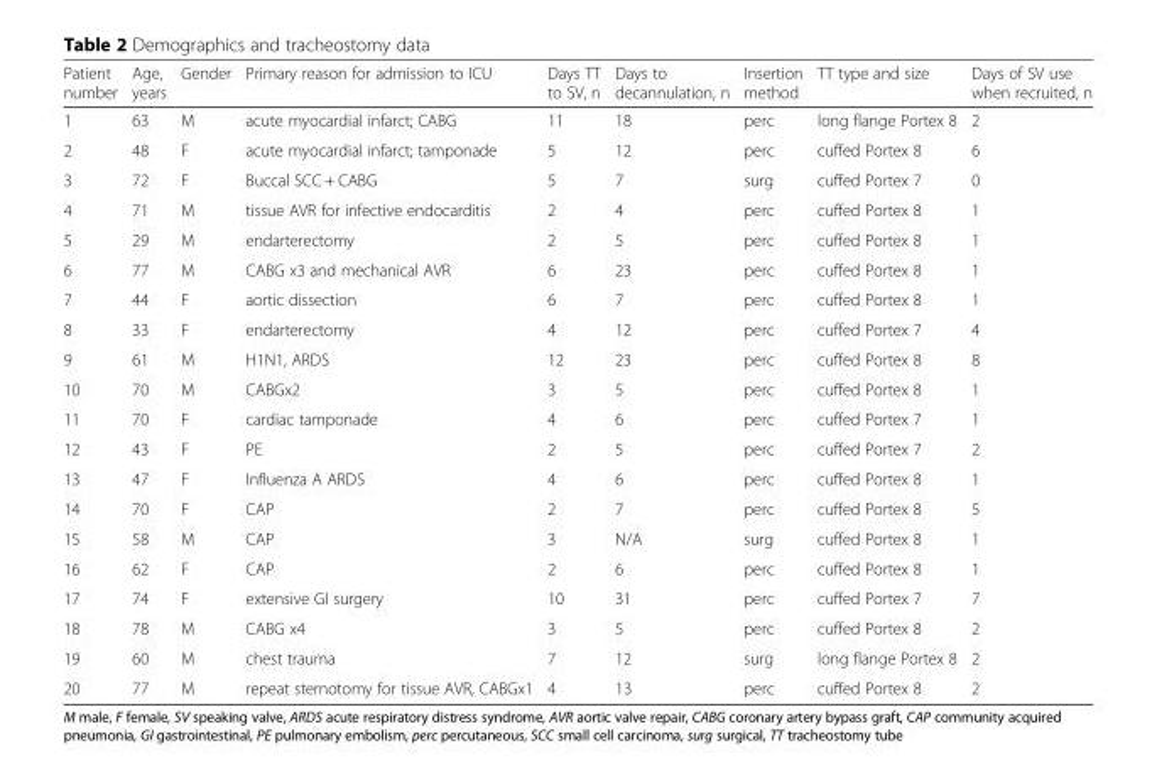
<table><thead><tr><td>Patient number</td><td>Age, years</td><td>Gender</td><td>Primary reason for admission to ICU</td><td>Days TT to SV, n</td><td>Days to decannulation, n</td><td>Insertion method</td><td>TT type and size</td><td>Days of SV use when recruited, n</td></tr></thead><tbody><tr><td>1</td><td>63</td><td>M</td><td>acute myocardial infarct; CABG</td><td>11</td><td>18</td><td>perc</td><td>long flange Portex 8</td><td>2</td></tr><tr><td>2</td><td>48</td><td>F</td><td>acute myocardial infarct; tamponade</td><td>5</td><td>12</td><td>perc</td><td>cuffed Portex 8</td><td>6</td></tr><tr><td>3</td><td>72</td><td>F</td><td>Buccal SCC + CABG</td><td>5</td><td>7</td><td>surg</td><td>cuffed Portex 7</td><td>0</td></tr><tr><td>4</td><td>71</td><td>M</td><td>tissue AVR for infective endocarditis</td><td>2</td><td>4</td><td>perc</td><td>cuffed Portex 8</td><td>1</td></tr><tr><td>5</td><td>29</td><td>M</td><td>endarterectomy</td><td>2</td><td>5</td><td>perc</td><td>cuffed Portex 8</td><td>1</td></tr><tr><td>6</td><td>77</td><td>M</td><td>CABG x3 and mechanical AVR</td><td>6</td><td>23</td><td>perc</td><td>cuffed Portex 8</td><td>1</td></tr><tr><td>7</td><td>44</td><td>F</td><td>aortic dissection</td><td>6</td><td>7</td><td>perc</td><td>cuffed Portex 8</td><td>1</td></tr><tr><td>8</td><td>33</td><td>F</td><td>endarterectomy</td><td>4</td><td>12</td><td>perc</td><td>cuffed Portex 7</td><td>4</td></tr><tr><td>9</td><td>61</td><td>M</td><td>H1N1, ARDS</td><td>12</td><td>23</td><td>perc</td><td>cuffed Portex 8</td><td>8</td></tr><tr><td>10</td><td>70</td><td>M</td><td>CABGx2</td><td>3</td><td>5</td><td>perc</td><td>cuffed Portex 8</td><td>1</td></tr><tr><td>11</td><td>70</td><td>F</td><td>cardiac tamponade</td><td>4</td><td>6</td><td>perc</td><td>cuffed Portex 7</td><td>1</td></tr><tr><td>12</td><td>43</td><td>F</td><td>PE</td><td>2</td><td>5</td><td>perc</td><td>cuffed Portex 7</td><td>2</td></tr><tr><td>13</td><td>47</td><td>F</td><td>Influenza A ARDS</td><td>4</td><td>6</td><td>perc</td><td>cuffed Portex 8</td><td>1</td></tr><tr><td>14</td><td>70</td><td>F</td><td>CAP</td><td>2</td><td>7</td><td>perc</td><td>cuffed Portex 8</td><td>5</td></tr><tr><td>15</td><td>58</td><td>M</td><td>CAP</td><td>3</td><td>N/A</td><td>surg</td><td>cuffed Portex 8</td><td>1</td></tr><tr><td>16</td><td>62</td><td>F</td><td>CAP</td><td>2</td><td>6</td><td>perc</td><td>cuffed Portex 8</td><td>1</td></tr><tr><td>17</td><td>74</td><td>F</td><td>extensive GI surgery</td><td>10</td><td>31</td><td>perc</td><td>cuffed Portex 7</td><td>7</td></tr><tr><td>18</td><td>78</td><td>M</td><td>CABG x4</td><td>3</td><td>5</td><td>perc</td><td>cuffed Portex 8</td><td>2</td></tr><tr><td>19</td><td>60</td><td>M</td><td>chest trauma</td><td>7</td><td>12</td><td>surg</td><td>long flange Portex 8</td><td>2</td></tr><tr><td>20</td><td>77</td><td>M</td><td>repeat sternotomy for tissue AVR, CABGx1</td><td>4</td><td>13</td><td>perc</td><td>cuffed Portex 8</td><td>2</td></tr></tbody></table>